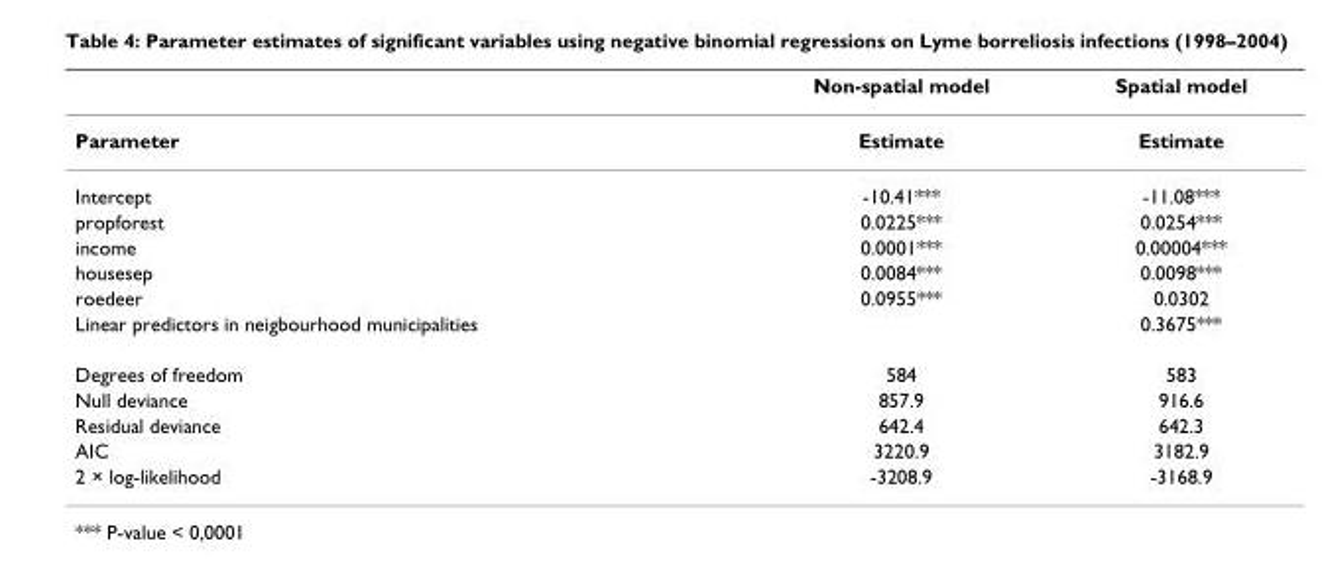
<table><thead><tr><td></td><td>Non-spatial model</td><td>Spatial model</td></tr></thead><tbody><tr><td>Parameter</td><td>Estimate</td><td>Estimate</td></tr><tr><td>Intercept</td><td>-10.41***</td><td>-11.08***</td></tr><tr><td>propforest</td><td>0.0225***</td><td>0.0254***</td></tr><tr><td>income</td><td>0.0001***</td><td>0.00004***</td></tr><tr><td>housesep</td><td>0.0084***</td><td>0.0098***</td></tr><tr><td>roedeer</td><td>0.0955***</td><td>0.0302</td></tr><tr><td>Linear predictors in neigbourhood municipalities</td><td></td><td>0.3675***</td></tr><tr><td>Degrees of freedom</td><td>584</td><td>583</td></tr><tr><td>Null deviance</td><td>857.9</td><td>916.6</td></tr><tr><td>Residual deviance</td><td>642.4</td><td>642.3</td></tr><tr><td>AIC</td><td>3220.9</td><td>3182.9</td></tr><tr><td>2 × log-likelihood</td><td>-3208.9</td><td>-3168.9</td></tr></tbody></table>